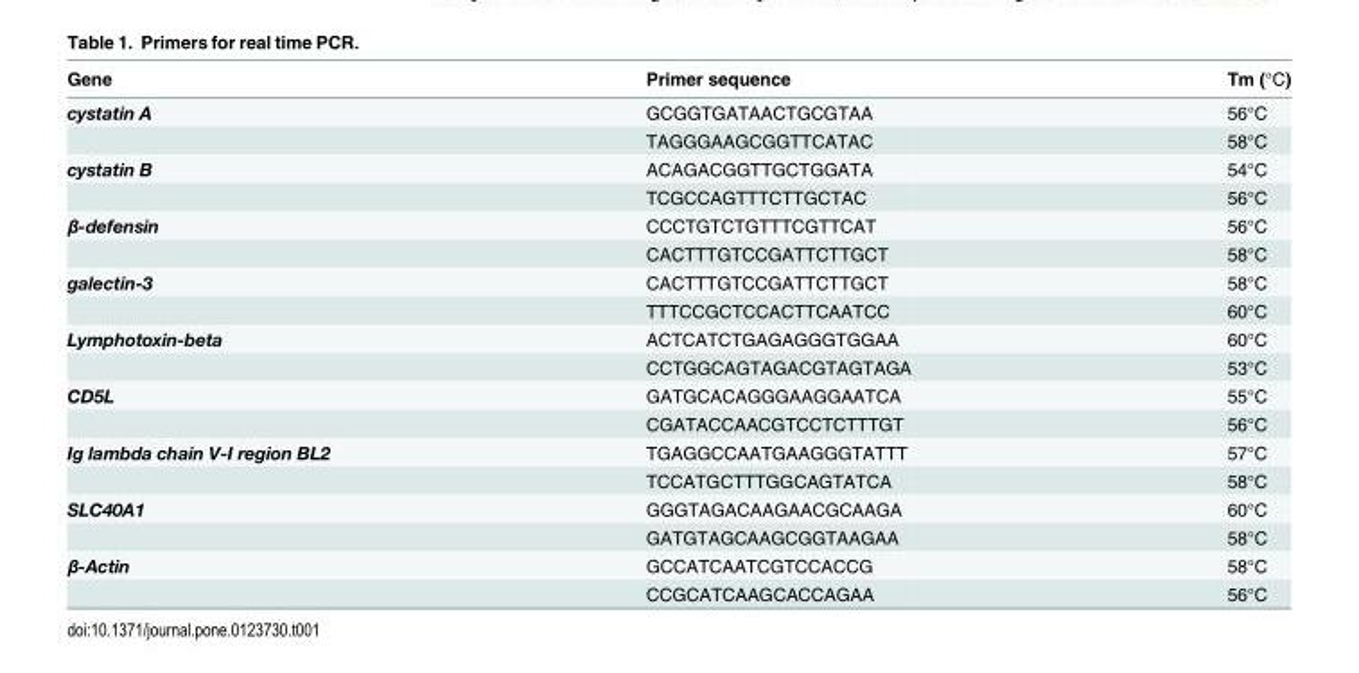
<table><thead><tr><td>Gene</td><td>Primer sequence</td><td>Tm (°C)</td></tr></thead><tbody><tr><td rowspan="2">cystatin A</td><td>GCGGTGATAACTGCGTAA</td><td>56°C</td></tr><tr><td>TAGGGAAGCGGTTCATAC</td><td>58°C</td></tr><tr><td rowspan="2">cystatin B</td><td>ACAGACGGTTGCTGGATA</td><td>54°C</td></tr><tr><td>TCGCCAGTTTCTTGCTAC</td><td>56°C</td></tr><tr><td rowspan="2">β-defensin</td><td>CCCTGTCTGTTTCGTTCAT</td><td>56°C</td></tr><tr><td>CACTTTGTCCGATTCTTGCT</td><td>58°C</td></tr><tr><td rowspan="2">galectin-3</td><td>CACTTTGTCCGATTCTTGCT</td><td>58°C</td></tr><tr><td>TTTCCGCTCCACTTCAATCC</td><td>60°C</td></tr><tr><td rowspan="2">Lymphotoxin-beta</td><td>ACTCATCTGAGAGGGTGGAA</td><td>60°C</td></tr><tr><td>CCTGGCAGTAGACGTAGTAGA</td><td>53°C</td></tr><tr><td rowspan="2">CD5L</td><td>GATGCACAGGGAAGGAATCA</td><td>55°C</td></tr><tr><td>CGATACCAACGTCCTCTTTGT</td><td>56°C</td></tr><tr><td rowspan="2">Ig lambda chain V-I region BL2</td><td>TGAGGCCAATGAAGGGTATTT</td><td>57°C</td></tr><tr><td>TCCATGCTTTGGCAGTATCA</td><td>58°C</td></tr><tr><td rowspan="2">SLC40A1</td><td>GGGTAGACAAGAACGCAAGA</td><td>60°C</td></tr><tr><td>GATGTAGCAAGCGGTAAGAA</td><td>58°C</td></tr><tr><td rowspan="2">β-Actin</td><td>GCCATCAATCGTCCACCG</td><td>58°C</td></tr><tr><td>CCGCATCAAGCACCAGAA</td><td>56°C</td></tr></tbody></table>